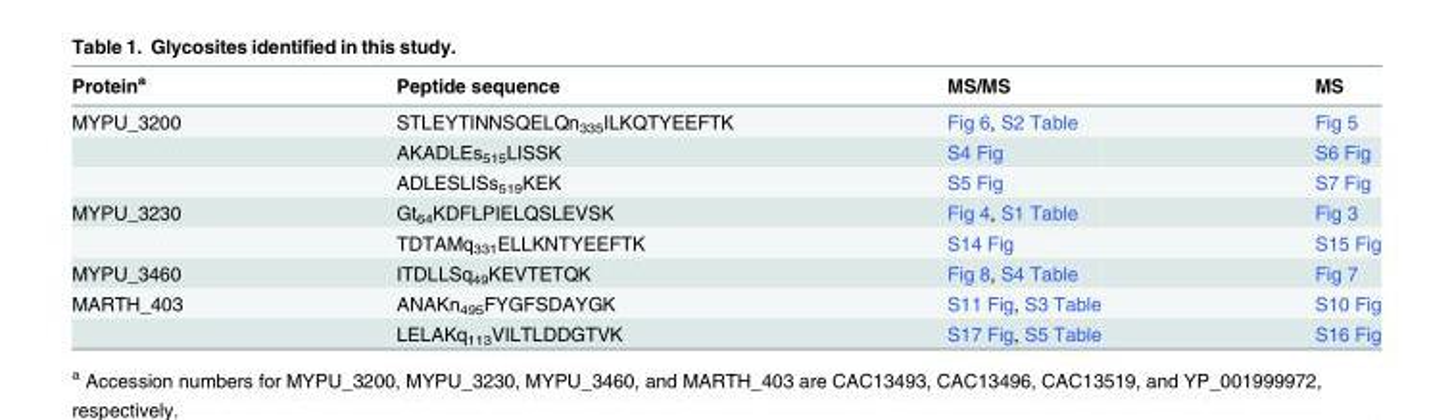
<table><thead><tr><td>Protein<sup>a</sup></td><td>Peptide sequence</td><td>MS/MS</td><td>MS</td></tr></thead><tbody><tr><td rowspan="3">MYPU_3200</td><td>STLEYTINNSQELQn<sub>335</sub>ILKQTYEEFTK</td><td>Fig 6, S2 Table</td><td>Fig 5</td></tr><tr><td>AKADLEs<sub>515</sub>LISSK</td><td>S4 Fig</td><td>S6 Fig</td></tr><tr><td>ADLESLISs<sub>519</sub>KEK</td><td>S5 Fig</td><td>S7 Fig</td></tr><tr><td rowspan="2">MYPU_3230</td><td>Gt<sub>64</sub>KDFLPIELQSLEVSK</td><td>Fig 4, S1 Table</td><td>Fig 3</td></tr><tr><td>TDTAMq<sub>331</sub>ELLKNTYEEFTK</td><td>S14 Fig</td><td>S15 Fig</td></tr><tr><td>MYPU_3460</td><td>ITDLLSq<sub>49</sub>KEVTETQK</td><td>Fig 8, S4 Table</td><td>Fig 7</td></tr><tr><td rowspan="2">MARTH_403</td><td>ANAKn<sub>495</sub>FYGFSDAYGK</td><td>S11 Fig, S3 Table</td><td>S10 Fig</td></tr><tr><td>LELAKq<sub>113</sub>VILTLDDGTVK</td><td>S17 Fig, S5 Table</td><td>S16 Fig</td></tr></tbody></table>